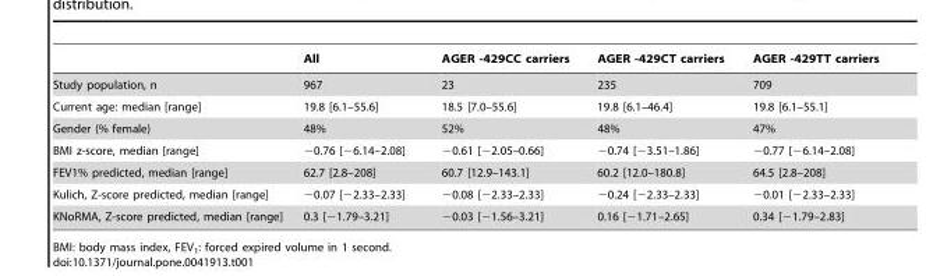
<table><thead><tr><td></td><td>All</td><td>AGER -429CC carriers</td><td>AGER -429CT carriers</td><td>AGER -429TT carriers</td></tr></thead><tbody><tr><td>Study population, n</td><td>967</td><td>23</td><td>235</td><td>709</td></tr><tr><td>Current age: median [range]</td><td>19.8 [6.1–55.6]</td><td>18.5 [7.0–55.6]</td><td>19.8 [6.1–46.4]</td><td>19.8 [6.1–55.1]</td></tr><tr><td>Gender (% female)</td><td>48%</td><td>52%</td><td>48%</td><td>47%</td></tr><tr><td>BMI z-score, median [range]</td><td>−0.76 [−6.14–2.08]</td><td>−0.61 [−2.05–0.66]</td><td>−0.74 [−3.51–1.86]</td><td>−0.77 [−6.14–2.08]</td></tr><tr><td>FEV1% predicted, median [range]</td><td>62.7 [2.8–208]</td><td>60.7 [12.9–143.1]</td><td>60.2 [12.0–180.8]</td><td>64.5 [2.8–208]</td></tr><tr><td>Kulich, Z-score predicted, median [range]</td><td>−0.07 [−2.33–2.33]</td><td>−0.08 [−2.33–2.33]</td><td>−0.24 [−2.33–2.33]</td><td>−0.01 [−2.33–2.33]</td></tr><tr><td>KNoRMA, Z-score predicted, median [range]</td><td>0.3 [−1.79–3.21]</td><td>−0.03 [−1.56–3.21]</td><td>0.16 [−1.71–2.65]</td><td>0.34 [−1.79–2.83]</td></tr></tbody></table>